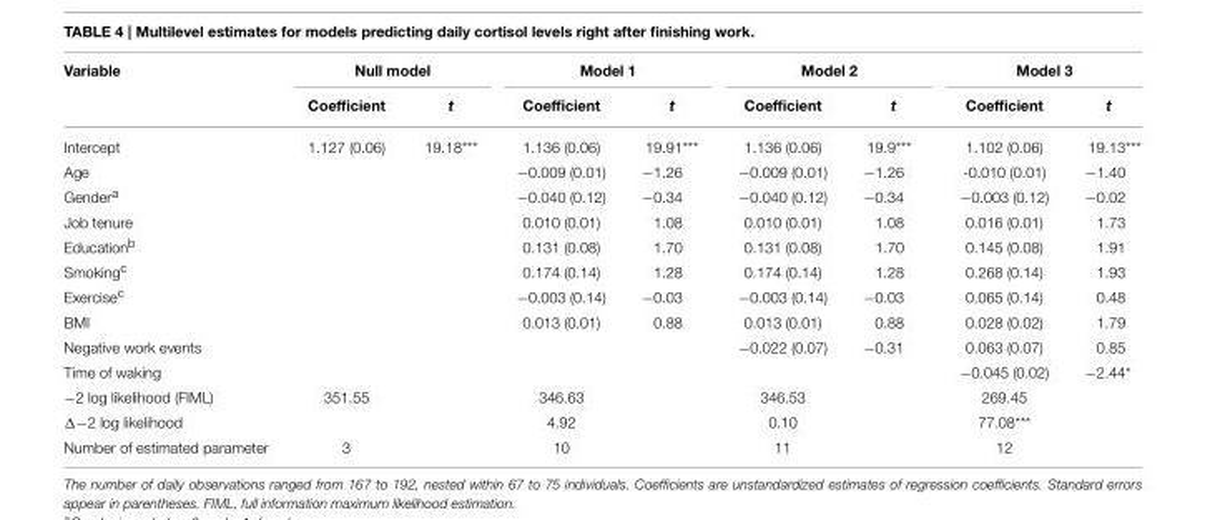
<table><thead><tr><td rowspan="2">Variable</td><td colspan="2">Null model</td><td colspan="2">Model 1</td><td colspan="2">Model 2</td><td colspan="2">Model 3</td></tr><tr><td>Coefficient</td><td>t</td><td>Coefficient</td><td>t</td><td>Coefficient</td><td>t</td><td>Coefficient</td><td>t</td></tr></thead><tbody><tr><td>Intercept</td><td>1.127 (0.06)</td><td>19.18***</td><td>1.136 (0.06)</td><td>19.91***</td><td>1.136 (0.06)</td><td>19.9***</td><td>1.102 (0.06)</td><td>19.13***</td></tr><tr><td>Age</td><td></td><td></td><td>−0.009 (0.01)</td><td>−1.26</td><td>−0.009 (0.01)</td><td>−1.26</td><td>-0.010 (0.01)</td><td>−1.40</td></tr><tr><td>Gender<sup>a</sup></td><td></td><td></td><td>−0.040 (0.12)</td><td>−0.34</td><td>−0.040 (0.12)</td><td>−0.34</td><td>−0.003 (0.12)</td><td>−0.02</td></tr><tr><td>Job tenure</td><td></td><td></td><td>0.010 (0.01)</td><td>1.08</td><td>0.010 (0.01)</td><td>1.08</td><td>0.016 (0.01)</td><td>1.73</td></tr><tr><td>Education<sup>b</sup></td><td></td><td></td><td>0.131 (0.08)</td><td>1.70</td><td>0.131 (0.08)</td><td>1.70</td><td>0.145 (0.08)</td><td>1.91</td></tr><tr><td>Smoking<sup>c</sup></td><td></td><td></td><td>0.174 (0.14)</td><td>1.28</td><td>0.174 (0.14)</td><td>1.28</td><td>0.268 (0.14)</td><td>1.93</td></tr><tr><td>Exercise<sup>c</sup></td><td></td><td></td><td>−0.003 (0.14)</td><td>−0.03</td><td>−0.003 (0.14)</td><td>−0.03</td><td>0.065 (0.14)</td><td>0.48</td></tr><tr><td>BMI</td><td></td><td></td><td>0.013 (0.01)</td><td>0.88</td><td>0.013 (0.01)</td><td>0.88</td><td>0.028 (0.02)</td><td>1.79</td></tr><tr><td>Negative work events</td><td></td><td></td><td></td><td></td><td>−0.022 (0.07)</td><td>−0.31</td><td>0.063 (0.07)</td><td>0.85</td></tr><tr><td>Time of waking</td><td></td><td></td><td></td><td></td><td></td><td></td><td>−0.045 (0.02)</td><td>−2.44*</td></tr><tr><td>−2 log likelihood (FIML)</td><td>351.55</td><td></td><td>346.63</td><td></td><td>346.53</td><td></td><td>269.45</td><td></td></tr><tr><td>Δ−2 log likelihood</td><td></td><td></td><td>4.92</td><td></td><td>0.10</td><td></td><td>77.08***</td><td></td></tr><tr><td>Number of estimated parameter</td><td>3</td><td></td><td>10</td><td></td><td>11</td><td></td><td>12</td><td></td></tr></tbody></table>